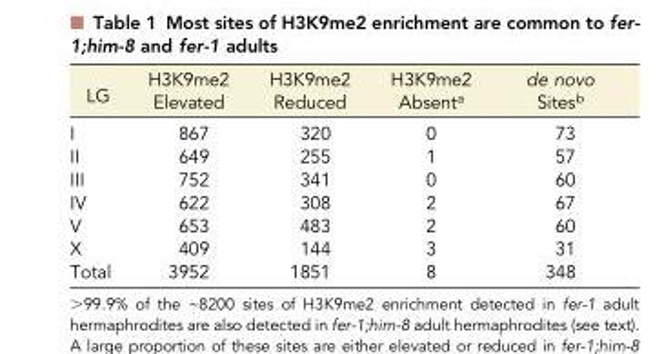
<table><thead><tr><td>LG</td><td>H3K9me2 Elevated</td><td>H3K9me2 Reduced</td><td>H3K9me2 Absent<sup>a</sup></td><td>de novo Sites<sup>b</sup></td></tr></thead><tbody><tr><td>I</td><td>867</td><td>320</td><td>0</td><td>73</td></tr><tr><td>II</td><td>649</td><td>255</td><td>1</td><td>57</td></tr><tr><td>III</td><td>752</td><td>341</td><td>0</td><td>60</td></tr><tr><td>IV</td><td>622</td><td>308</td><td>2</td><td>67</td></tr><tr><td>V</td><td>653</td><td>483</td><td>2</td><td>60</td></tr><tr><td>X</td><td>409</td><td>144</td><td>3</td><td>31</td></tr><tr><td>Total</td><td>3952</td><td>1851</td><td>8</td><td>348</td></tr></tbody></table>